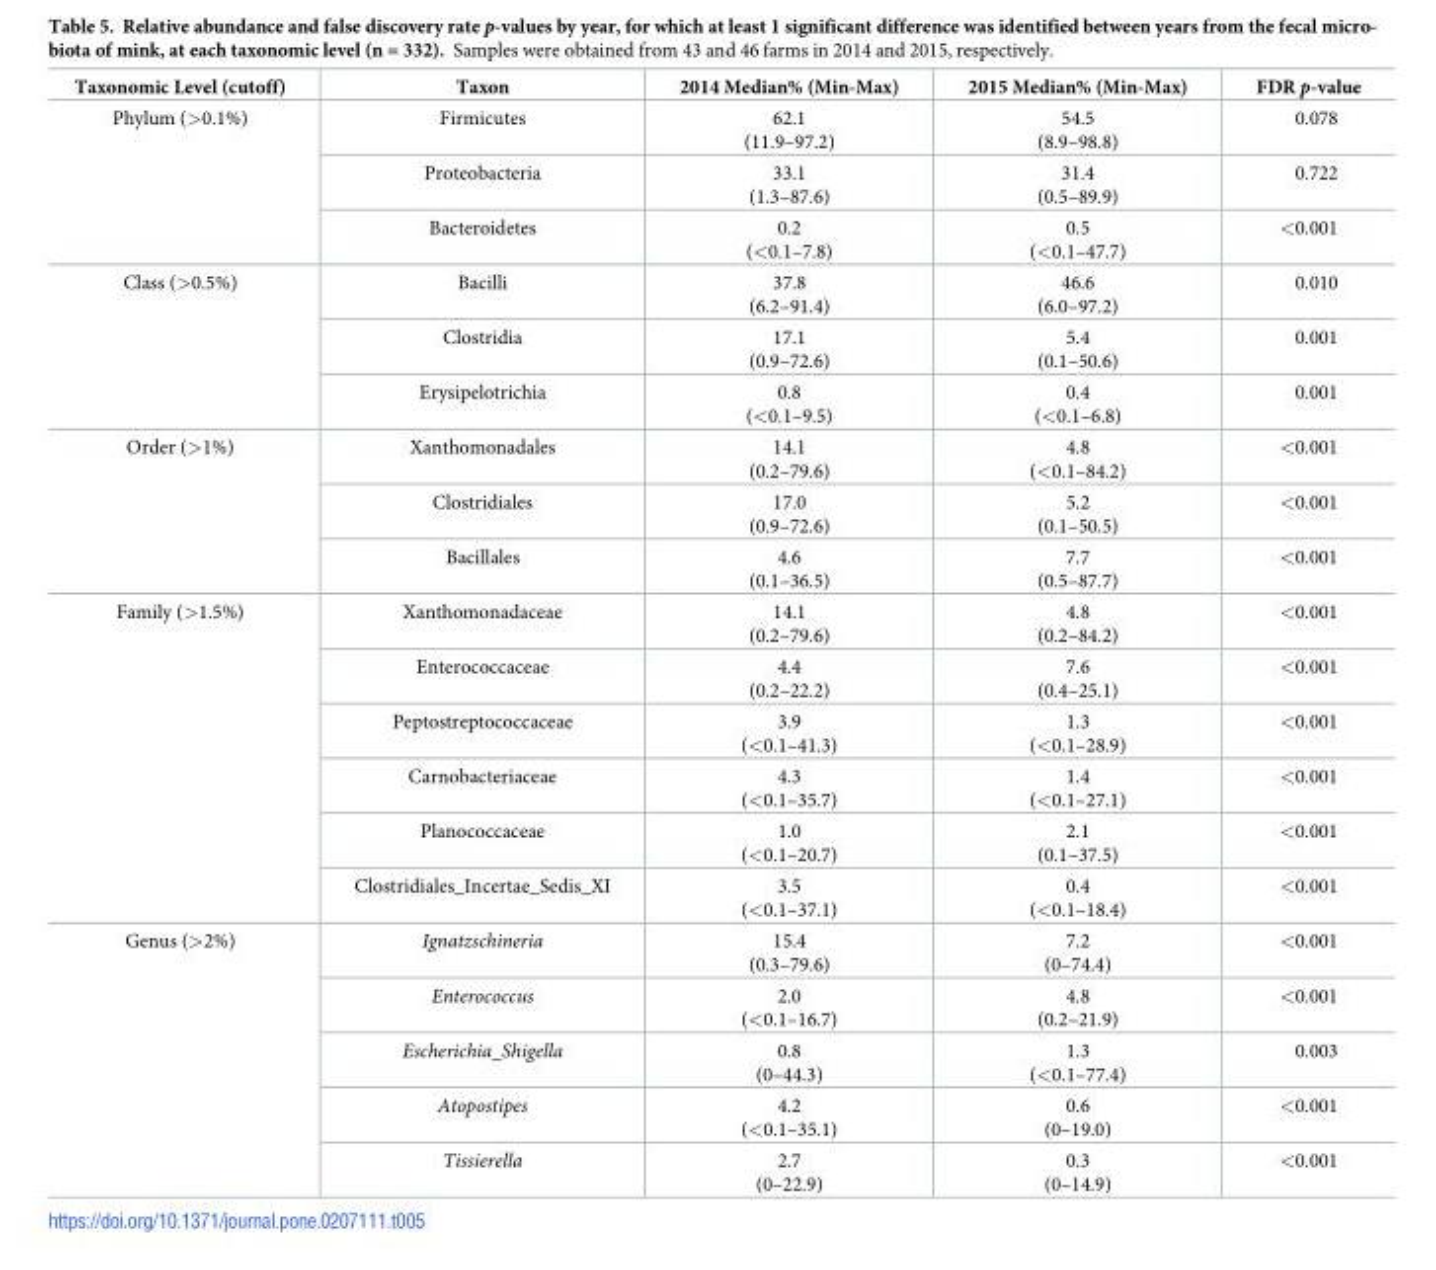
<table><thead><tr><td>Taxonomic Level (cutoff)</td><td>Taxon</td><td>2014 Median% (Min-Max)</td><td>2015 Median% (Min-Max)</td><td>FDR p-value</td></tr></thead><tbody><tr><td rowspan="3">Phylum (&gt;0.1%)</td><td>Firmicutes</td><td>62.1 (11.9–97.2)</td><td>54.5 (8.9–98.8)</td><td>0.078</td></tr><tr><td>Proteobacteria</td><td>33.1 (1.3–87.6)</td><td>31.4 (0.5–89.9)</td><td>0.722</td></tr><tr><td>Bacteroidetes</td><td>0.2 (&lt;0.1–7.8)</td><td>0.5 (&lt;0.1–47.7)</td><td>&lt;0.001</td></tr><tr><td rowspan="3">Class (&gt;0.5%)</td><td>Bacilli</td><td>37.8 (6.2–91.4)</td><td>46.6 (6.0–97.2)</td><td>0.010</td></tr><tr><td>Clostridia</td><td>17.1 (0.9–72.6)</td><td>5.4 (0.1–50.6)</td><td>0.001</td></tr><tr><td>Erysipelotrichia</td><td>0.8 (&lt;0.1–9.5)</td><td>0.4 (&lt;0.1–6.8)</td><td>0.001</td></tr><tr><td rowspan="3">Order (&gt;1%)</td><td>Xanthomonadales</td><td>14.1 (0.2–79.6)</td><td>4.8 (&lt;0.1–84.2)</td><td>&lt;0.001</td></tr><tr><td>Clostridiales</td><td>17.0 (0.9–72.6)</td><td>5.2 (0.1–50.5)</td><td>&lt;0.001</td></tr><tr><td>Bacillales</td><td>4.6 (0.1–36.5)</td><td>7.7 (0.5–87.7)</td><td>&lt;0.001</td></tr><tr><td rowspan="6">Family (&gt;1.5%)</td><td>Xanthomonadaceae</td><td>14.1 (0.2–79.6)</td><td>4.8 (0.2–84.2)</td><td>&lt;0.001</td></tr><tr><td>Enterococcaceae</td><td>4.4 (0.2–22.2)</td><td>7.6 (0.4–25.1)</td><td>&lt;0.001</td></tr><tr><td>Peptostreptococcaceae</td><td>3.9 (&lt;0.1–41.3)</td><td>1.3 (&lt;0.1–28.9)</td><td>&lt;0.001</td></tr><tr><td>Carnobacteriaceae</td><td>4.3 (&lt;0.1–35.7)</td><td>1.4 (&lt;0.1–27.1)</td><td>&lt;0.001</td></tr><tr><td>Planococcaceae</td><td>1.0 (&lt;0.1–20.7)</td><td>2.1 (0.1–37.5)</td><td>&lt;0.001</td></tr><tr><td>Clostridiales_Incertae_Sedis_XI</td><td>3.5 (&lt;0.1–37.1)</td><td>0.4 (&lt;0.1–18.4)</td><td>&lt;0.001</td></tr><tr><td rowspan="5">Genus (&gt;2%)</td><td>Ignatzschineria</td><td>15.4 (0.3–79.6)</td><td>7.2 (0–74.4)</td><td>&lt;0.001</td></tr><tr><td>Enterococcus</td><td>2.0 (&lt;0.1–16.7)</td><td>4.8 (0.2–21.9)</td><td>&lt;0.001</td></tr><tr><td>Escherichia_Shigella</td><td>0.8 (0–44.3)</td><td>1.3 (&lt;0.1–77.4)</td><td>0.003</td></tr><tr><td>Atopostipes</td><td>4.2 (&lt;0.1–35.1)</td><td>0.6 (0–19.0)</td><td>&lt;0.001</td></tr><tr><td>Tissierella</td><td>2.7 (0–22.9)</td><td>0.3 (0–14.9)</td><td>&lt;0.001</td></tr></tbody></table>